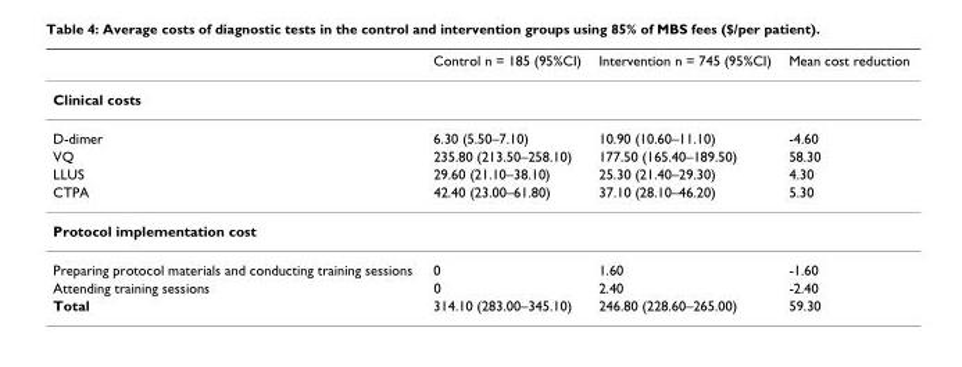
<table><thead><tr><td></td><td>Control n = 185 (95%CI)</td><td>Intervention n = 745 (95%CI)</td><td>Mean cost reduction</td></tr></thead><tbody><tr><td colspan="4">Clinical costs</td></tr><tr><td>D-dimer</td><td>6.30 (5.50–7.10)</td><td>10.90 (10.60–11.10)</td><td>-4.60</td></tr><tr><td>VQ</td><td>235.80 (213.50–258.10)</td><td>177.50 (165.40–189.50)</td><td>58.30</td></tr><tr><td>LLUS</td><td>29.60 (21.10–38.10)</td><td>25.30 (21.40–29.30)</td><td>4.30</td></tr><tr><td>CTPA</td><td>42.40 (23.00–61.80)</td><td>37.10 (28.10–46.20)</td><td>5.30</td></tr><tr><td colspan="4">Protocol implementation cost</td></tr><tr><td>Preparing protocol materials and conducting training sessions</td><td>0</td><td>1.60</td><td>-1.60</td></tr><tr><td>Attending training sessions</td><td>0</td><td>2.40</td><td>-2.40</td></tr><tr><td>Total</td><td>314.10 (283.00–345.10)</td><td>246.80 (228.60–265.00)</td><td>59.30</td></tr></tbody></table>